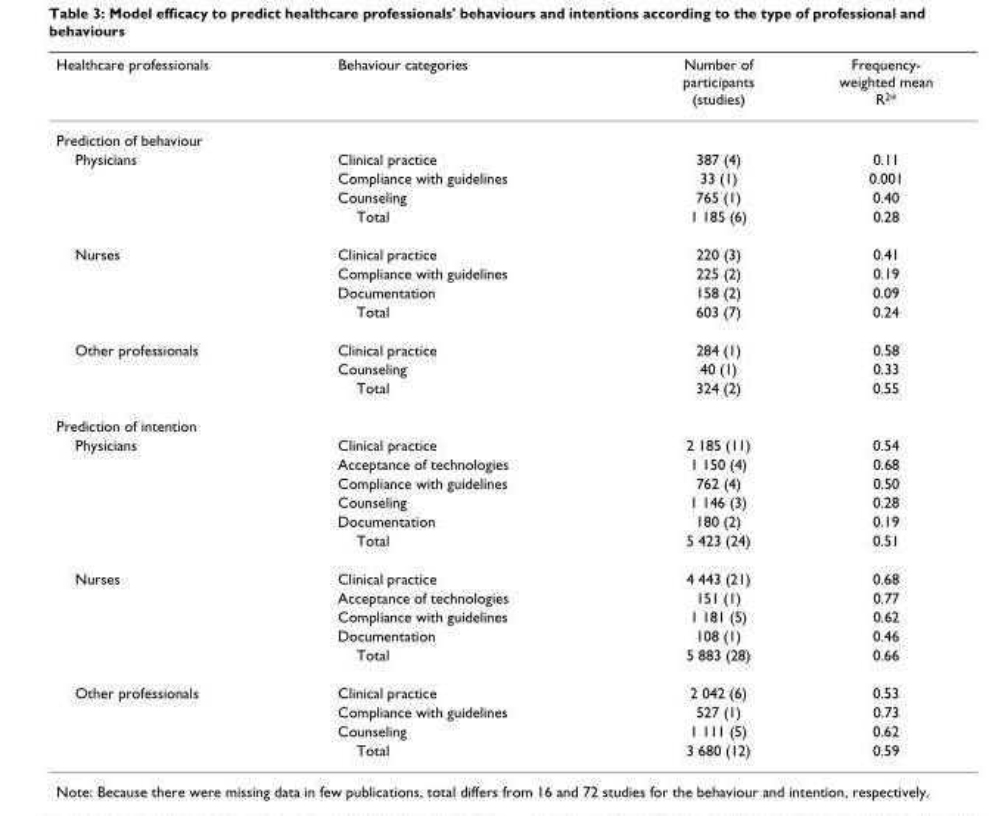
<table><thead><tr><td>Healthcare professionals</td><td>Behaviour categories</td><td>Number of participants (studies)</td><td>Frequency- weighted mean R<sup>2</sup>*</td></tr></thead><tbody><tr><td colspan="4">Prediction of behaviour</td></tr><tr><td rowspan="4">Physicians</td><td>Clinical practice</td><td>387 (4)</td><td>0.11</td></tr><tr><td>Compliance with guidelines</td><td>33 (1)</td><td>0.001</td></tr><tr><td>Counseling</td><td>765 (1)</td><td>0.40</td></tr><tr><td>Total</td><td>1 185 (6)</td><td>0.28</td></tr><tr><td rowspan="4">Nurses</td><td>Clinical practice</td><td>220 (3)</td><td>0.41</td></tr><tr><td>Compliance with guidelines</td><td>225 (2)</td><td>0.19</td></tr><tr><td>Documentation</td><td>158 (2)</td><td>0.09</td></tr><tr><td>Total</td><td>603 (7)</td><td>0.24</td></tr><tr><td rowspan="3">Other professionals</td><td>Clinical practice</td><td>284 (1)</td><td>0.58</td></tr><tr><td>Counseling</td><td>40 (1)</td><td>0.33</td></tr><tr><td>Total</td><td>324 (2)</td><td>0.55</td></tr><tr><td colspan="4">Prediction of intention</td></tr><tr><td rowspan="6">Physicians</td><td>Clinical practice</td><td>2 185 (11)</td><td>0.54</td></tr><tr><td>Acceptance of technologies</td><td>1 150 (4)</td><td>0.68</td></tr><tr><td>Compliance with guidelines</td><td>762 (4)</td><td>0.50</td></tr><tr><td>Counseling</td><td>1 146 (3)</td><td>0.28</td></tr><tr><td>Documentation</td><td>180 (2)</td><td>0.19</td></tr><tr><td>Total</td><td>5 423 (24)</td><td>0.51</td></tr><tr><td rowspan="5">Nurses</td><td>Clinical practice</td><td>4 443 (21)</td><td>0.68</td></tr><tr><td>Acceptance of technologies</td><td>151 (1)</td><td>0.77</td></tr><tr><td>Compliance with guidelines</td><td>1 181 (5)</td><td>0.62</td></tr><tr><td>Documentation</td><td>108 (1)</td><td>0.46</td></tr><tr><td>Total</td><td>5 883 (28)</td><td>0.66</td></tr><tr><td rowspan="4">Other professionals</td><td>Clinical practice</td><td>2 042 (6)</td><td>0.53</td></tr><tr><td>Compliance with guidelines</td><td>527 (1)</td><td>0.73</td></tr><tr><td>Counseling</td><td>1 111 (5)</td><td>0.62</td></tr><tr><td>Total</td><td>3 680 (12)</td><td>0.59</td></tr></tbody></table>